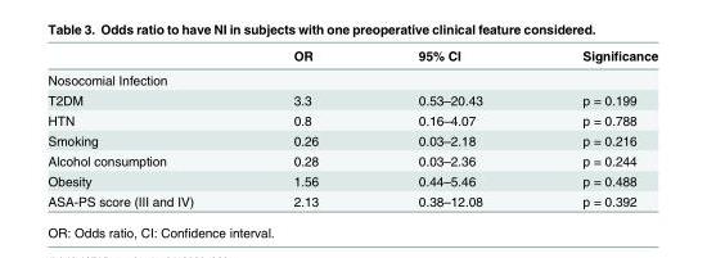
<table><thead><tr><td></td><td>OR</td><td>95% CI</td><td>Significance</td></tr></thead><tbody><tr><td colspan="4">Nosocomial Infection</td></tr><tr><td>T2DM</td><td>3.3</td><td>0.53–20.43</td><td>p = 0.199</td></tr><tr><td>HTN</td><td>0.8</td><td>0.16–4.07</td><td>p = 0.788</td></tr><tr><td>Smoking</td><td>0.26</td><td>0.03–2.18</td><td>p = 0.216</td></tr><tr><td>Alcohol consumption</td><td>0.28</td><td>0.03–2.36</td><td>p = 0.244</td></tr><tr><td>Obesity</td><td>1.56</td><td>0.44–5.46</td><td>p = 0.488</td></tr><tr><td>ASA-PS score (III and IV)</td><td>2.13</td><td>0.38–12.08</td><td>p = 0.392</td></tr></tbody></table>